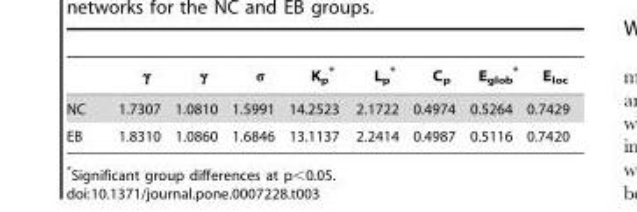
<table><thead><tr><td></td><td>γ</td><td>γ</td><td>σ</td><td>K<sub>p</sub> *</td><td>L<sub>p</sub> *</td><td>C<sub>p</sub></td><td>E<sub>glob</sub> *</td><td>E<sub>loc</sub></td></tr></thead><tbody><tr><td>NC</td><td>1.7307</td><td>1.0810</td><td>1.5991</td><td>14.2523</td><td>2.1722</td><td>0.4974</td><td>0.5264</td><td>0.7429</td></tr><tr><td>EB</td><td>1.8310</td><td>1.0860</td><td>1.6846</td><td>13.1137</td><td>2.2414</td><td>0.4987</td><td>0.5116</td><td>0.7420</td></tr></tbody></table>